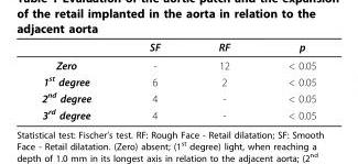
<table><thead><tr><td></td><td>SF</td><td>RF</td><td>p</td></tr></thead><tbody><tr><td>Zero</td><td>-</td><td>12</td><td>&lt; 0.05</td></tr><tr><td>1<sup>st</sup> degree</td><td>6</td><td>2</td><td>&lt; 0.05</td></tr><tr><td>2<sup>nd</sup> degree</td><td>4</td><td>-</td><td>&lt; 0.05</td></tr><tr><td>3<sup>rd</sup> degree</td><td>4</td><td>-</td><td>&lt; 0.05</td></tr></tbody></table>